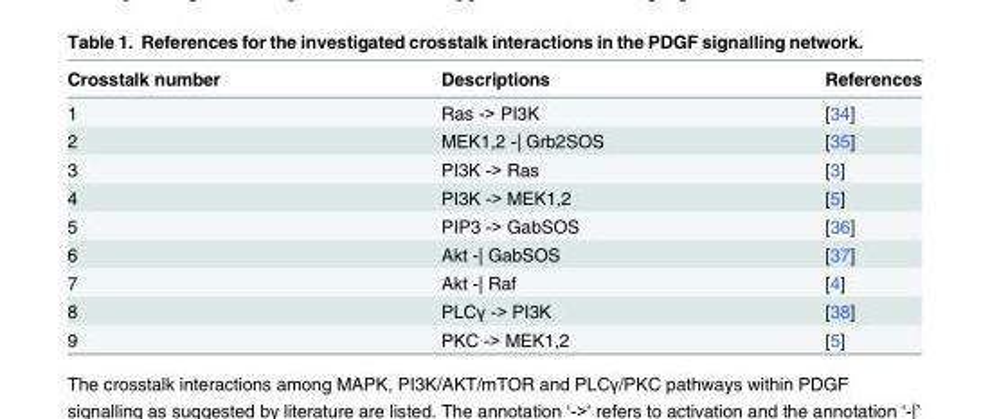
<table><thead><tr><td>Crosstalk number</td><td>Descriptions</td><td>References</td></tr></thead><tbody><tr><td>1</td><td>Ras -&gt; PI3K</td><td>[34]</td></tr><tr><td>2</td><td>MEK1,2 -| Grb2SOS</td><td>[35]</td></tr><tr><td>3</td><td>PI3K -&gt; Ras</td><td>[3]</td></tr><tr><td>4</td><td>PI3K -&gt; MEK1,2</td><td>[5]</td></tr><tr><td>5</td><td>PIP3 -&gt; GabSOS</td><td>[36]</td></tr><tr><td>6</td><td>Akt -| GabSOS</td><td>[37]</td></tr><tr><td>7</td><td>Akt -| Raf</td><td>[4]</td></tr><tr><td>8</td><td>PLCγ -&gt; PI3K</td><td>[38]</td></tr><tr><td>9</td><td>PKC -&gt; MEK1,2</td><td>[5]</td></tr></tbody></table>